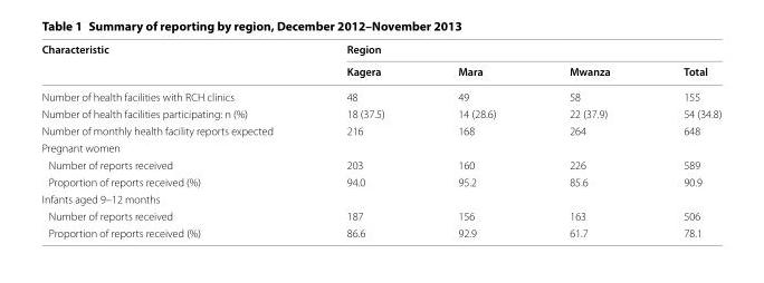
<table><thead><tr><td rowspan="2">Characteristic</td><td colspan="4">Region</td></tr><tr><td>Kagera</td><td>Mara</td><td>Mwanza</td><td>Total</td></tr></thead><tbody><tr><td>Number of health facilities with RCH clinics</td><td>48</td><td>49</td><td>58</td><td>155</td></tr><tr><td>Number of health facilities participating: n (%)</td><td>18 (37.5)</td><td>14 (28.6)</td><td>22 (37.9)</td><td>54 (34.8)</td></tr><tr><td>Number of monthly health facility reports expected</td><td>216</td><td>168</td><td>264</td><td>648</td></tr><tr><td colspan="5">Pregnant women</td></tr><tr><td>Number of reports received</td><td>203</td><td>160</td><td>226</td><td>589</td></tr><tr><td>Proportion of reports received (%)</td><td>94.0</td><td>95.2</td><td>85.6</td><td>90.9</td></tr><tr><td colspan="5">Infants aged 9–12 months</td></tr><tr><td>Number of reports received</td><td>187</td><td>156</td><td>163</td><td>506</td></tr><tr><td>Proportion of reports received (%)</td><td>86.6</td><td>92.9</td><td>61.7</td><td>78.1</td></tr></tbody></table>